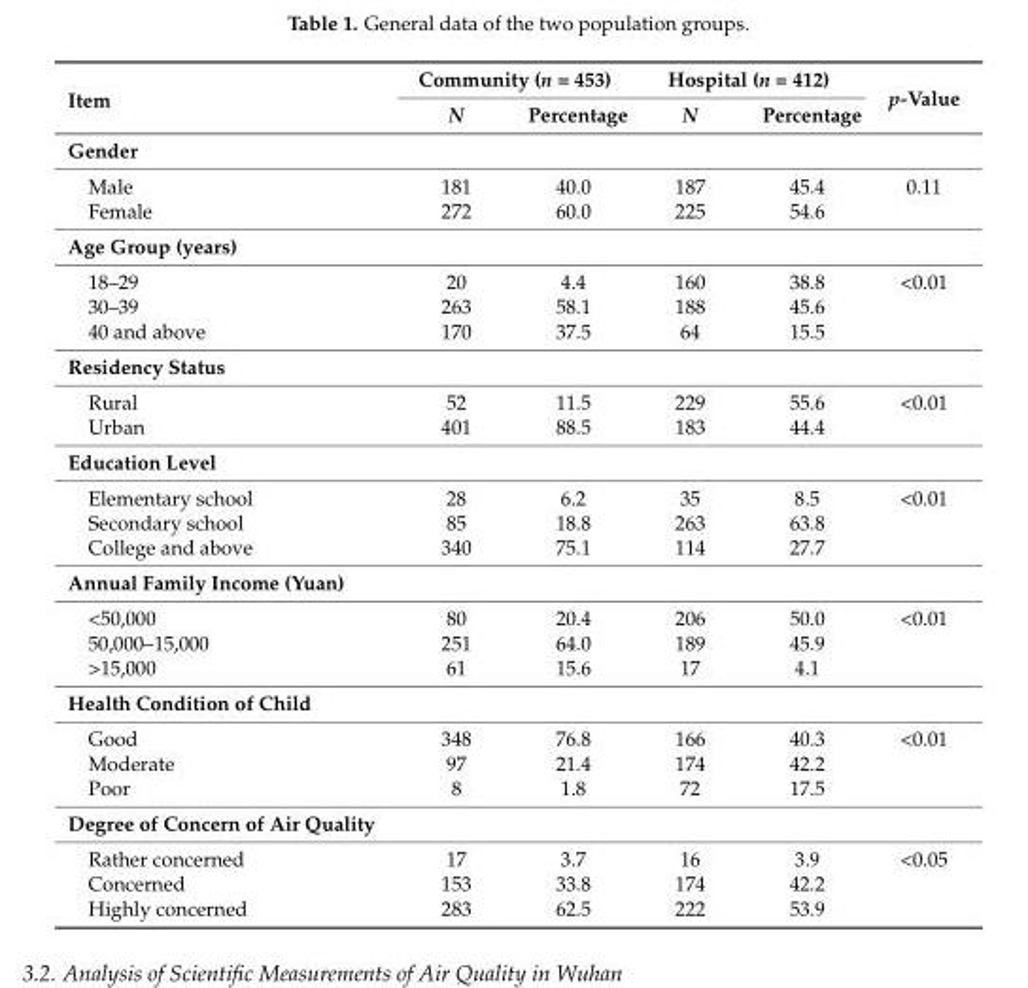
<table><thead><tr><td rowspan="2">Item</td><td colspan="2">Community (n = 453)</td><td colspan="2">Hospital (n = 412)</td><td rowspan="2">p-Value</td></tr><tr><td>N</td><td>Percentage</td><td>N</td><td>Percentage</td></tr></thead><tbody><tr><td colspan="6">Gender</td></tr><tr><td>Male</td><td>181</td><td>40.0</td><td>187</td><td>45.4</td><td>0.11</td></tr><tr><td>Female</td><td>272</td><td>60.0</td><td>225</td><td>54.6</td><td></td></tr><tr><td colspan="6">Age Group (years)</td></tr><tr><td>18–29</td><td>20</td><td>4.4</td><td>160</td><td>38.8</td><td>&lt;0.01</td></tr><tr><td>30–39</td><td>263</td><td>58.1</td><td>188</td><td>45.6</td><td rowspan="2"></td></tr><tr><td>40 and above</td><td>170</td><td>37.5</td><td>64</td><td>15.5</td></tr><tr><td colspan="6">Residency Status</td></tr><tr><td>Rural</td><td>52</td><td>11.5</td><td>229</td><td>55.6</td><td>&lt;0.01</td></tr><tr><td>Urban</td><td>401</td><td>88.5</td><td>183</td><td>44.4</td><td></td></tr><tr><td colspan="6">Education Level</td></tr><tr><td>Elementary school</td><td>28</td><td>6.2</td><td>35</td><td>8.5</td><td>&lt;0.01</td></tr><tr><td>Secondary school</td><td>85</td><td>18.8</td><td>263</td><td>63.8</td><td rowspan="2"></td></tr><tr><td>College and above</td><td>340</td><td>75.1</td><td>114</td><td>27.7</td></tr><tr><td colspan="6">Annual Family Income (Yuan)</td></tr><tr><td>&lt;50,000</td><td>80</td><td>20.4</td><td>206</td><td>50.0</td><td>&lt;0.01</td></tr><tr><td>50,000–15,000</td><td>251</td><td>64.0</td><td>189</td><td>45.9</td><td rowspan="2"></td></tr><tr><td>&gt;15,000</td><td>61</td><td>15.6</td><td>17</td><td>4.1</td></tr><tr><td colspan="6">Health Condition of Child</td></tr><tr><td>Good</td><td>348</td><td>76.8</td><td>166</td><td>40.3</td><td>&lt;0.01</td></tr><tr><td>Moderate</td><td>97</td><td>21.4</td><td>174</td><td>42.2</td><td rowspan="2"></td></tr><tr><td>Poor</td><td>8</td><td>1.8</td><td>72</td><td>17.5</td></tr><tr><td colspan="6">Degree of Concern of Air Quality</td></tr><tr><td>Rather concerned</td><td>17</td><td>3.7</td><td>16</td><td>3.9</td><td>&lt;0.05</td></tr><tr><td>Concerned</td><td>153</td><td>33.8</td><td>174</td><td>42.2</td><td rowspan="2"></td></tr><tr><td>Highly concerned</td><td>283</td><td>62.5</td><td>222</td><td>53.9</td></tr></tbody></table>